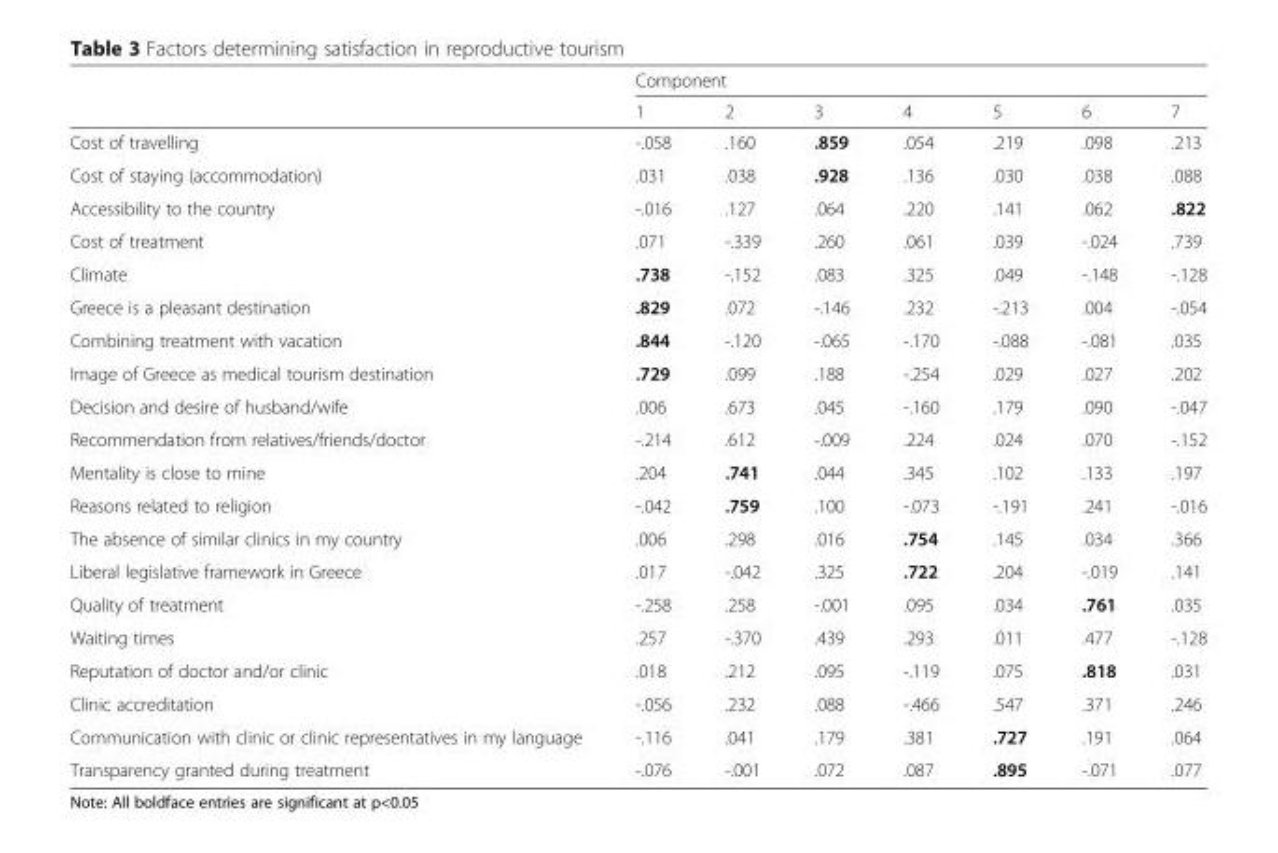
<table><thead><tr><td rowspan="2"></td><td colspan="7">Component</td></tr><tr><td>1</td><td>2</td><td>3</td><td>4</td><td>5</td><td>6</td><td>7</td></tr></thead><tbody><tr><td>Cost of travelling</td><td>-.058</td><td>.160</td><td>.859</td><td>.054</td><td>.219</td><td>.098</td><td>.213</td></tr><tr><td>Cost of staying (accommodation)</td><td>.031</td><td>.038</td><td>.928</td><td>.136</td><td>.030</td><td>.038</td><td>.088</td></tr><tr><td>Accessibility to the country</td><td>-.016</td><td>.127</td><td>.064</td><td>.220</td><td>.141</td><td>.062</td><td>.822</td></tr><tr><td>Cost of treatment</td><td>.071</td><td>-.339</td><td>.260</td><td>.061</td><td>.039</td><td>-.024</td><td>.739</td></tr><tr><td>Climate</td><td>.738</td><td>-.152</td><td>.083</td><td>.325</td><td>.049</td><td>-.148</td><td>-.128</td></tr><tr><td>Greece is a pleasant destination</td><td>.829</td><td>.072</td><td>-.146</td><td>.232</td><td>-.213</td><td>.004</td><td>-.054</td></tr><tr><td>Combining treatment with vacation</td><td>.844</td><td>-.120</td><td>-.065</td><td>-.170</td><td>-.088</td><td>-.081</td><td>.035</td></tr><tr><td>Image of Greece as medical tourism destination</td><td>.729</td><td>.099</td><td>.188</td><td>-.254</td><td>.029</td><td>.027</td><td>.202</td></tr><tr><td>Decision and desire of husband/wife</td><td>.006</td><td>.673</td><td>.045</td><td>-.160</td><td>.179</td><td>.090</td><td>-.047</td></tr><tr><td>Recommendation from relatives/friends/doctor</td><td>-.214</td><td>.612</td><td>-.009</td><td>.224</td><td>.024</td><td>.070</td><td>-.152</td></tr><tr><td>Mentality is close to mine</td><td>.204</td><td>.741</td><td>.044</td><td>.345</td><td>.102</td><td>.133</td><td>.197</td></tr><tr><td>Reasons related to religion</td><td>-.042</td><td>.759</td><td>.100</td><td>-.073</td><td>-.191</td><td>.241</td><td>-.016</td></tr><tr><td>The absence of similar clinics in my country</td><td>.006</td><td>.298</td><td>.016</td><td>.754</td><td>.145</td><td>.034</td><td>.366</td></tr><tr><td>Liberal legislative framework in Greece</td><td>.017</td><td>-.042</td><td>.325</td><td>.722</td><td>.204</td><td>-.019</td><td>.141</td></tr><tr><td>Quality of treatment</td><td>-.258</td><td>.258</td><td>-.001</td><td>.095</td><td>.034</td><td>.761</td><td>.035</td></tr><tr><td>Waiting times</td><td>.257</td><td>-.370</td><td>.439</td><td>.293</td><td>.011</td><td>.477</td><td>-.128</td></tr><tr><td>Reputation of doctor and/or clinic</td><td>.018</td><td>.212</td><td>.095</td><td>-.119</td><td>.075</td><td>.818</td><td>.031</td></tr><tr><td>Clinic accreditation</td><td>-.056</td><td>.232</td><td>.088</td><td>-.466</td><td>.547</td><td>.371</td><td>.246</td></tr><tr><td>Communication with clinic or clinic representatives in my language</td><td>-.116</td><td>.041</td><td>.179</td><td>.381</td><td>.727</td><td>.191</td><td>.064</td></tr><tr><td>Transparency granted during treatment</td><td>-.076</td><td>-.001</td><td>.072</td><td>.087</td><td>.895</td><td>-.071</td><td>.077</td></tr></tbody></table>